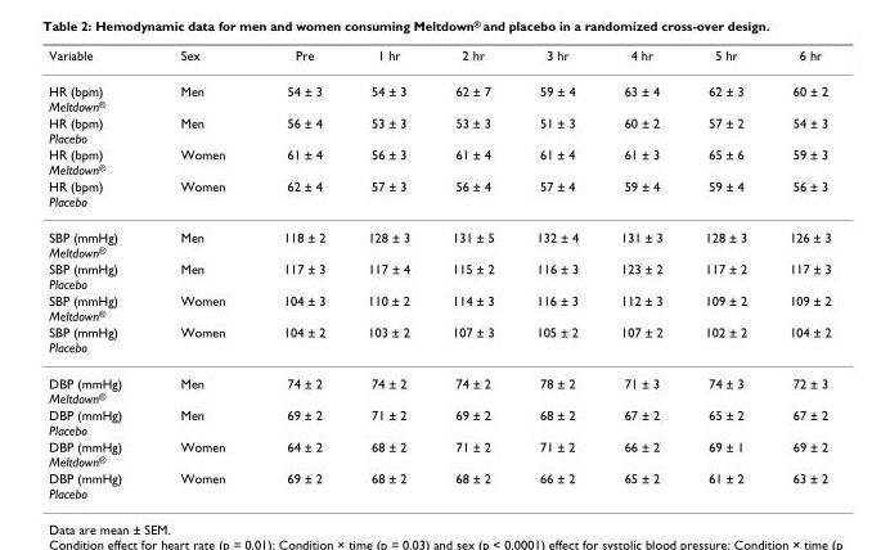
<table><thead><tr><td>Variable</td><td>Sex</td><td>Pre</td><td>1 hr</td><td>2 hr</td><td>3 hr</td><td>4 hr</td><td>5 hr</td><td>6 hr</td></tr></thead><tbody><tr><td>HR (bpm) Meltdown<sup>®</sup></td><td>Men</td><td>54 ± 3</td><td>54 ± 3</td><td>62 ± 7</td><td>59 ± 4</td><td>63 ± 4</td><td>62 ± 3</td><td>60 ± 2</td></tr><tr><td>HR (bpm) Placebo</td><td>Men</td><td>56 ± 4</td><td>53 ± 3</td><td>53 ± 3</td><td>51 ± 3</td><td>60 ± 2</td><td>57 ± 2</td><td>54 ± 3</td></tr><tr><td>HR (bpm) Meltdown<sup>®</sup></td><td>Women</td><td>61 ± 4</td><td>56 ± 3</td><td>61 ± 4</td><td>61 ± 4</td><td>61 ± 3</td><td>65 ± 6</td><td>59 ± 3</td></tr><tr><td>HR (bpm) Placebo</td><td>Women</td><td>62 ± 4</td><td>57 ± 3</td><td>56 ± 4</td><td>57 ± 4</td><td>59 ± 4</td><td>59 ± 4</td><td>56 ± 3</td></tr><tr><td>SBP (mmHg) Meltdown<sup>®</sup></td><td>Men</td><td>118 ± 2</td><td>128 ± 3</td><td>131 ± 5</td><td>132 ± 4</td><td>131 ± 3</td><td>128 ± 3</td><td>126 ± 3</td></tr><tr><td>SBP (mmHg) Placebo</td><td>Men</td><td>117 ± 3</td><td>117 ± 4</td><td>115 ± 2</td><td>116 ± 3</td><td>123 ± 2</td><td>117 ± 2</td><td>117 ± 3</td></tr><tr><td>SBP (mmHg) Meltdown<sup>®</sup></td><td>Women</td><td>104 ± 3</td><td>110 ± 2</td><td>114 ± 3</td><td>116 ± 3</td><td>112 ± 3</td><td>109 ± 2</td><td>109 ± 2</td></tr><tr><td>SBP (mmHg) Placebo</td><td>Women</td><td>104 ± 2</td><td>103 ± 2</td><td>107 ± 3</td><td>105 ± 2</td><td>107 ± 2</td><td>102 ± 2</td><td>104 ± 2</td></tr><tr><td>DBP (mmHg) Meltdown<sup>®</sup></td><td>Men</td><td>74 ± 2</td><td>74 ± 2</td><td>74 ± 2</td><td>78 ± 2</td><td>71 ± 3</td><td>74 ± 3</td><td>72 ± 3</td></tr><tr><td>DBP (mmHg) Placebo</td><td>Men</td><td>69 ± 2</td><td>71 ± 2</td><td>69 ± 2</td><td>68 ± 2</td><td>67 ± 2</td><td>65 ± 2</td><td>67 ± 2</td></tr><tr><td>DBP (mmHg) Meltdown<sup>®</sup></td><td>Women</td><td>64 ± 2</td><td>68 ± 2</td><td>71 ± 2</td><td>71 ± 2</td><td>66 ± 2</td><td>69 ± 1</td><td>69 ± 2</td></tr><tr><td>DBP (mmHg) Placebo</td><td>Women</td><td>69 ± 2</td><td>68 ± 2</td><td>68 ± 2</td><td>66 ± 2</td><td>65 ± 2</td><td>61 ± 2</td><td>63 ± 2</td></tr></tbody></table>